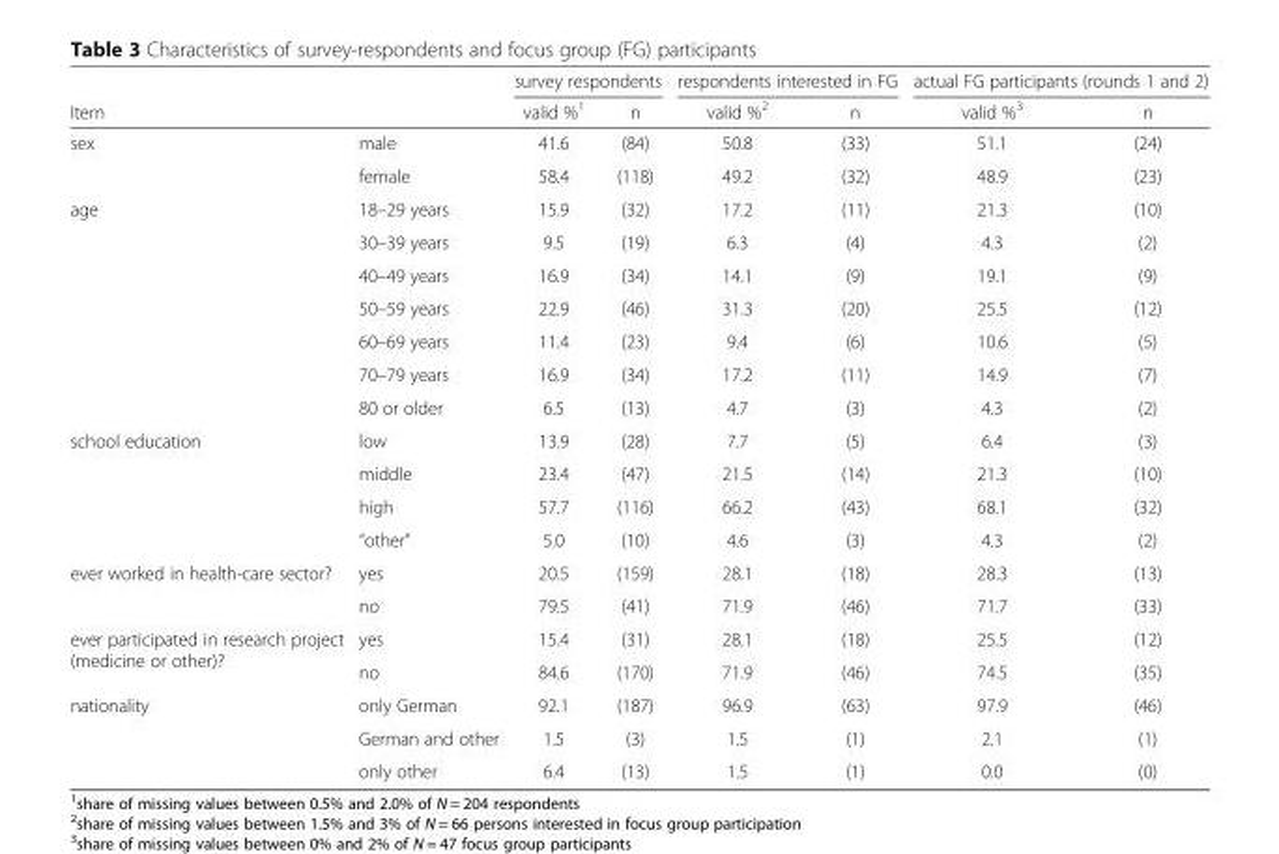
<table><thead><tr><td></td><td></td><td colspan="2">survey respondents</td><td colspan="2">respondents interested in FG</td><td colspan="2">actual FG participants (rounds 1 and 2)</td></tr><tr><td colspan="2">Item</td><td>valid %<sup>1</sup></td><td>n</td><td>valid %<sup>2</sup></td><td>n</td><td>valid %<sup>3</sup></td><td>n</td></tr></thead><tbody><tr><td rowspan="2">sex</td><td>male</td><td>41.6</td><td>(84)</td><td>50.8</td><td>(33)</td><td>51.1</td><td>(24)</td></tr><tr><td>female</td><td>58.4</td><td>(118)</td><td>49.2</td><td>(32)</td><td>48.9</td><td>(23)</td></tr><tr><td rowspan="7">age</td><td>18–29 years</td><td>15.9</td><td>(32)</td><td>17.2</td><td>(11)</td><td>21.3</td><td>(10)</td></tr><tr><td>30–39 years</td><td>9.5</td><td>(19)</td><td>6.3</td><td>(4)</td><td>4.3</td><td>(2)</td></tr><tr><td>40–49 years</td><td>16.9</td><td>(34)</td><td>14.1</td><td>(9)</td><td>19.1</td><td>(9)</td></tr><tr><td>50–59 years</td><td>22.9</td><td>(46)</td><td>31.3</td><td>(20)</td><td>25.5</td><td>(12)</td></tr><tr><td>60–69 years</td><td>11.4</td><td>(23)</td><td>9.4</td><td>(6)</td><td>10.6</td><td>(5)</td></tr><tr><td>70–79 years</td><td>16.9</td><td>(34)</td><td>17.2</td><td>(11)</td><td>14.9</td><td>(7)</td></tr><tr><td>80 or older</td><td>6.5</td><td>(13)</td><td>4.7</td><td>(3)</td><td>4.3</td><td>(2)</td></tr><tr><td rowspan="4">school education</td><td>low</td><td>13.9</td><td>(28)</td><td>7.7</td><td>(5)</td><td>6.4</td><td>(3)</td></tr><tr><td>middle</td><td>23.4</td><td>(47)</td><td>21.5</td><td>(14)</td><td>21.3</td><td>(10)</td></tr><tr><td>high</td><td>57.7</td><td>(116)</td><td>66.2</td><td>(43)</td><td>68.1</td><td>(32)</td></tr><tr><td>“other”</td><td>5.0</td><td>(10)</td><td>4.6</td><td>(3)</td><td>4.3</td><td>(2)</td></tr><tr><td rowspan="2">ever worked in health-care sector?</td><td>yes</td><td>20.5</td><td>(159)</td><td>28.1</td><td>(18)</td><td>28.3</td><td>(13)</td></tr><tr><td>no</td><td>79.5</td><td>(41)</td><td>71.9</td><td>(46)</td><td>71.7</td><td>(33)</td></tr><tr><td rowspan="2">ever participated in research project (medicine or other)?</td><td>yes</td><td>15.4</td><td>(31)</td><td>28.1</td><td>(18)</td><td>25.5</td><td>(12)</td></tr><tr><td>no</td><td>84.6</td><td>(170)</td><td>71.9</td><td>(46)</td><td>74.5</td><td>(35)</td></tr><tr><td rowspan="3">nationality</td><td>only German</td><td>92.1</td><td>(187)</td><td>96.9</td><td>(63)</td><td>97.9</td><td>(46)</td></tr><tr><td>German and other</td><td>1.5</td><td>(3)</td><td>1.5</td><td>(1)</td><td>2.1</td><td>(1)</td></tr><tr><td>only other</td><td>6.4</td><td>(13)</td><td>1.5</td><td>(1)</td><td>0.0</td><td>(0)</td></tr></tbody></table>